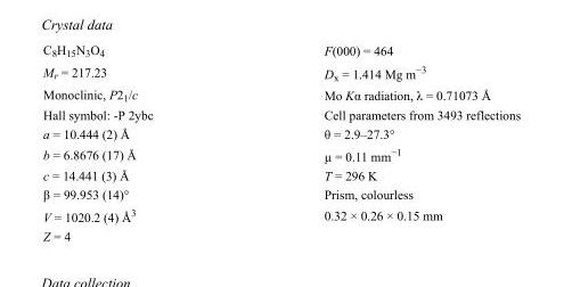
<table><tbody><tr><td>C<sub>8</sub>H<sub>15</sub>N<sub>3</sub>O<sub>4</sub></td><td>F(000) = 464</td></tr><tr><td>M<sub>r</sub> = 217.23</td><td>D<sub>x</sub> = 1.414 Mg m<sup>−3</sup></td></tr><tr><td>Monoclinic, P2<sub>1</sub>/c</td><td>Mo Kα radiation, λ = 0.71073 Å</td></tr><tr><td>Hall symbol: -P 2ybc</td><td>Cell parameters from 3493 reflections</td></tr><tr><td>a = 10.444 (2) Å</td><td>θ = 2.9–27.3°</td></tr><tr><td>b = 6.8676 (17) Å</td><td>µ = 0.11 mm<sup>−1</sup></td></tr><tr><td>c = 14.441 (3) Å</td><td>T = 296 K</td></tr><tr><td>β = 99.953 (14)°</td><td>Prism, colourless</td></tr><tr><td>V = 1020.2 (4) Å<sup>3</sup></td><td>0.32 × 0.26 × 0.15 mm</td></tr><tr><td>Z = 4</td><td></td></tr></tbody></table>